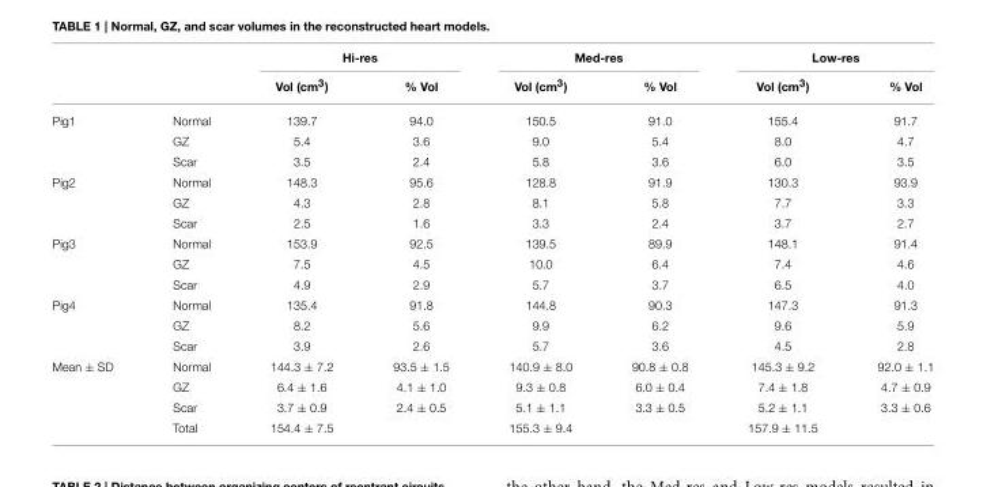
<table><thead><tr><td rowspan="2"></td><td rowspan="2"></td><td colspan="2">Hi-res</td><td colspan="2">Med-res</td><td colspan="2">Low-res</td></tr><tr><td>Vol (cm<sup>3</sup>)</td><td>% Vol</td><td>Vol (cm<sup>3</sup>)</td><td>% Vol</td><td>Vol (cm<sup>3</sup>)</td><td>% Vol</td></tr></thead><tbody><tr><td rowspan="3">Pig1</td><td>Normal</td><td>139.7</td><td>94.0</td><td>150.5</td><td>91.0</td><td>155.4</td><td>91.7</td></tr><tr><td>GZ</td><td>5.4</td><td>3.6</td><td>9.0</td><td>5.4</td><td>8.0</td><td>4.7</td></tr><tr><td>Scar</td><td>3.5</td><td>2.4</td><td>5.8</td><td>3.6</td><td>6.0</td><td>3.5</td></tr><tr><td rowspan="3">Pig2</td><td>Normal</td><td>148.3</td><td>95.6</td><td>128.8</td><td>91.9</td><td>130.3</td><td>93.9</td></tr><tr><td>GZ</td><td>4.3</td><td>2.8</td><td>8.1</td><td>5.8</td><td>7.7</td><td>3.3</td></tr><tr><td>Scar</td><td>2.5</td><td>1.6</td><td>3.3</td><td>2.4</td><td>3.7</td><td>2.7</td></tr><tr><td rowspan="3">Pig3</td><td>Normal</td><td>153.9</td><td>92.5</td><td>139.5</td><td>89.9</td><td>148.1</td><td>91.4</td></tr><tr><td>GZ</td><td>7.5</td><td>4.5</td><td>10.0</td><td>6.4</td><td>7.4</td><td>4.6</td></tr><tr><td>Scar</td><td>4.9</td><td>2.9</td><td>5.7</td><td>3.7</td><td>6.5</td><td>4.0</td></tr><tr><td rowspan="3">Pig4</td><td>Normal</td><td>135.4</td><td>91.8</td><td>144.8</td><td>90.3</td><td>147.3</td><td>91.3</td></tr><tr><td>GZ</td><td>8.2</td><td>5.6</td><td>9.9</td><td>6.2</td><td>9.6</td><td>5.9</td></tr><tr><td>Scar</td><td>3.9</td><td>2.6</td><td>5.7</td><td>3.6</td><td>4.5</td><td>2.8</td></tr><tr><td rowspan="4">Mean ± SD</td><td>Normal</td><td>144.3 ± 7.2</td><td>93.5 ± 1.5</td><td>140.9 ± 8.0</td><td>90.8 ± 0.8</td><td>145.3 ± 9.2</td><td>92.0 ± 1.1</td></tr><tr><td>GZ</td><td>6.4 ± 1.6</td><td>4.1 ± 1.0</td><td>9.3 ± 0.8</td><td>6.0 ± 0.4</td><td>7.4 ± 1.8</td><td>4.7 ± 0.9</td></tr><tr><td>Scar</td><td>3.7 ± 0.9</td><td>2.4 ± 0.5</td><td>5.1 ± 1.1</td><td>3.3 ± 0.5</td><td>5.2 ± 1.1</td><td>3.3 ± 0.6</td></tr><tr><td>Total</td><td>154.4 ± 7.5</td><td></td><td>155.3 ± 9.4</td><td></td><td>157.9 ± 11.5</td><td></td></tr></tbody></table>